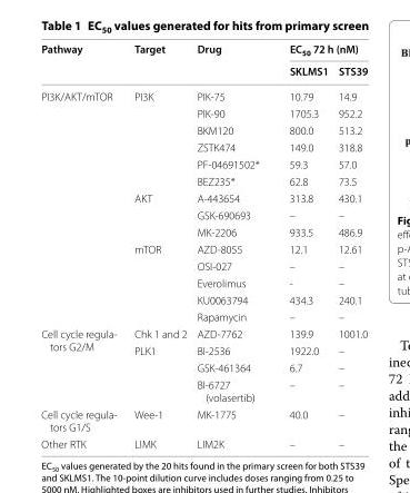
<table><thead><tr><td rowspan="2">Pathway</td><td rowspan="2">Target</td><td rowspan="2">Drug</td><td colspan="2">EC<sub>50</sub> 72 h (nM)</td></tr><tr><td>SKLMS1</td><td>STS39</td></tr></thead><tbody><tr><td rowspan="14">PI3K/AKT/mTOR</td><td rowspan="6">PI3K</td><td>PIK‑75</td><td>10.79</td><td>14.9</td></tr><tr><td>PIK‑90</td><td>1705.3</td><td>952.2</td></tr><tr><td>BKM120</td><td>800.0</td><td>513.2</td></tr><tr><td>ZSTK474</td><td>149.0</td><td>318.8</td></tr><tr><td>PF‑04691502*</td><td>59.3</td><td>57.0</td></tr><tr><td>BEZ235*</td><td>62.8</td><td>73.5</td></tr><tr><td rowspan="3">AKT</td><td>A‑443654</td><td>313.8</td><td>430.1</td></tr><tr><td>GSK‑690693</td><td>–</td><td>–</td></tr><tr><td>MK‑2206</td><td>933.5</td><td>486.9</td></tr><tr><td rowspan="5">mTOR</td><td>AZD‑8055</td><td>12.1</td><td>12.61</td></tr><tr><td>OSI‑027</td><td>–</td><td>–</td></tr><tr><td>Everolimus</td><td>‑</td><td>–</td></tr><tr><td>KU0063794</td><td>434.3</td><td>240.1</td></tr><tr><td>Rapamycin</td><td>–</td><td>–</td></tr><tr><td rowspan="4">Cell cycle regula‑ tors G2/M</td><td>Chk 1 and 2</td><td>AZD‑7762</td><td>139.9</td><td>1001.0</td></tr><tr><td rowspan="3">PLK1</td><td>BI‑2536</td><td>1922.0</td><td>–</td></tr><tr><td>GSK‑461364</td><td>6.7</td><td>–</td></tr><tr><td>BI‑6727 (volasertib)</td><td>–</td><td>–</td></tr><tr><td>Cell cycle regula‑ tors G1/S</td><td>Wee‑1</td><td>MK‑1775</td><td>40.0</td><td>–</td></tr><tr><td>Other RTK</td><td>LIMK</td><td>LIM2K</td><td>–</td><td>–</td></tr></tbody></table>